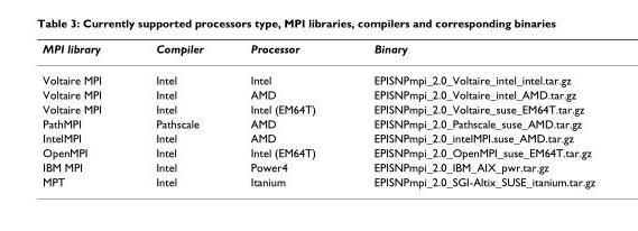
<table><thead><tr><td>MPI library</td><td>Compiler</td><td>Processor</td><td>Binary</td></tr></thead><tbody><tr><td>Voltaire MPI</td><td>Intel</td><td>Intel</td><td>EPISNPmpi_2.0_Voltaire_intel_intel.tar.gz</td></tr><tr><td>Voltaire MPI</td><td>Intel</td><td>AMD</td><td>EPISNPmpi_2.0_Voltaire_intel_AMD.tar.gz</td></tr><tr><td>Voltaire MPI</td><td>Intel</td><td>Intel (EM64T)</td><td>EPISNPmpi_2.0_Voltaire_suse_EM64T.tar.gz</td></tr><tr><td>PathMPI</td><td>Pathscale</td><td>AMD</td><td>EPISNPmpi_2.0_Pathscale_suse_AMD.tar.gz</td></tr><tr><td>IntelMPI</td><td>Intel</td><td>AMD</td><td>EPISNPmpi_2.0_intelMPI.suse_AMD.tar.gz</td></tr><tr><td>OpenMPI</td><td>Intel</td><td>Intel (EM64T)</td><td>EPISNPmpi_2.0_OpenMPI_suse_EM64T.tar.gz</td></tr><tr><td>IBM MPI</td><td>Intel</td><td>Power4</td><td>EPISNPmpi_2.0_IBM_AIX_pwr.tar.gz</td></tr><tr><td>MPT</td><td>Intel</td><td>Itanium</td><td>EPISNPmpi_2.0_SGI-Altix_SUSE_itanium.tar.gz</td></tr></tbody></table>